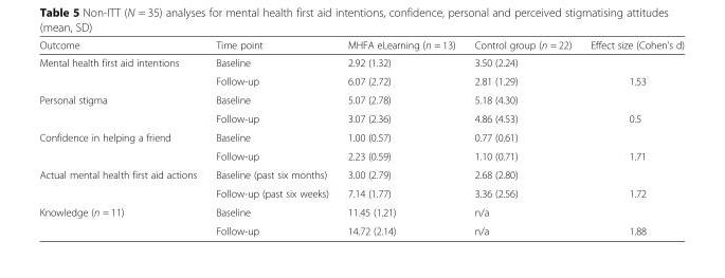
<table><thead><tr><td>Outcome</td><td>Time point</td><td>MHFA eLearning (n = 13)</td><td>Control group (n = 22)</td><td>Effect size (Cohen’s d)</td></tr></thead><tbody><tr><td rowspan="2">Mental health first aid intentions</td><td>Baseline</td><td>2.92 (1.32)</td><td>3.50 (2.24)</td><td></td></tr><tr><td>Follow-up</td><td>6.07 (2.72)</td><td>2.81 (1.29)</td><td>1.53</td></tr><tr><td rowspan="2">Personal stigma</td><td>Baseline</td><td>5.07 (2.78)</td><td>5.18 (4.30)</td><td></td></tr><tr><td>Follow-up</td><td>3.07 (2.36)</td><td>4.86 (4.53)</td><td>0.5</td></tr><tr><td rowspan="2">Confidence in helping a friend</td><td>Baseline</td><td>1.00 (0.57)</td><td>0.77 (0.61)</td><td></td></tr><tr><td>Follow-up</td><td>2.23 (0.59)</td><td>1.10 (0.71)</td><td>1.71</td></tr><tr><td rowspan="2">Actual mental health first aid actions</td><td>Baseline (past six months)</td><td>3.00 (2.79)</td><td>2.68 (2.80)</td><td></td></tr><tr><td>Follow-up (past six weeks)</td><td>7.14 (1.77)</td><td>3.36 (2.56)</td><td>1.72</td></tr><tr><td rowspan="2">Knowledge (n = 11)</td><td>Baseline</td><td>11.45 (1.21)</td><td>n/a</td><td></td></tr><tr><td>Follow-up</td><td>14.72 (2.14)</td><td>n/a</td><td>1.88</td></tr></tbody></table>